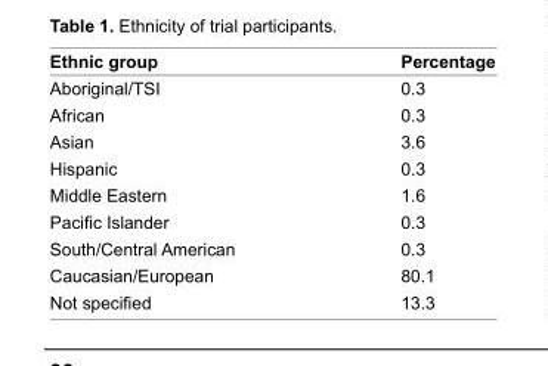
<table><thead><tr><td>ethnic group</td><td>percentage</td></tr></thead><tbody><tr><td>Aboriginal/Tsi</td><td>0.3</td></tr><tr><td>African</td><td>0.3</td></tr><tr><td>Asian</td><td>3.6</td></tr><tr><td>hispanic</td><td>0.3</td></tr><tr><td>Middle eastern</td><td>1.6</td></tr><tr><td>Pacific Islander</td><td>0.3</td></tr><tr><td>south/Central American</td><td>0.3</td></tr><tr><td>Caucasian/european</td><td>80.1</td></tr><tr><td>Not specified</td><td>13.3</td></tr></tbody></table>